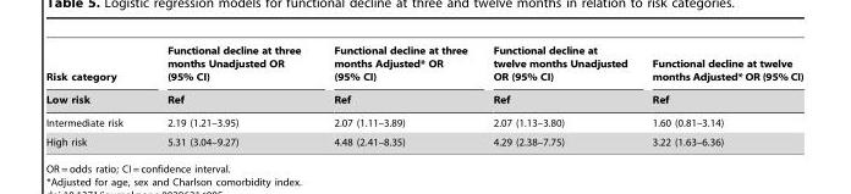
<table><thead><tr><td rowspan="2">Risk category Low risk</td><td rowspan="2">Functional decline at three months Unadjusted OR (95% CI) Ref</td><td rowspan="2">Functional decline at three months Adjusted* OR (95% CI) Ref</td><td rowspan="2">Functional decline at twelve months Unadjusted OR (95% CI) Ref</td><td rowspan="2">Functional decline at twelve months Adjusted* OR (95% CI) Ref</td></tr><tr></tr></thead><tbody><tr><td>Intermediate risk</td><td>2.19 (1.21–3.95)</td><td>2.07 (1.11–3.89)</td><td>2.07 (1.13–3.80)</td><td>1.60 (0.81–3.14)</td></tr><tr><td>High risk</td><td>5.31 (3.04–9.27)</td><td>4.48 (2.41–8.35)</td><td>4.29 (2.38–7.75)</td><td>3.22 (1.63–6.36)</td></tr></tbody></table>